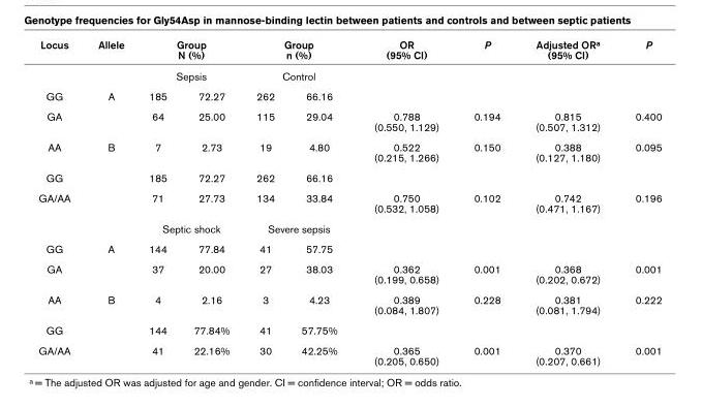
<table><thead><tr><td rowspan="3">Locus GG</td><td rowspan="3">Allele A</td><td rowspan="2" colspan="2">Group N (%) Sepsis</td><td rowspan="2" colspan="2">Group n (%) Control</td><td rowspan="3">OR (95% CI)</td><td rowspan="3">P</td><td rowspan="3">Adjusted OR<sup>a</sup> (95% CI)</td><td rowspan="3">P</td></tr><tr></tr><tr><td>185</td><td>72.27</td><td>262</td><td>66.16</td></tr></thead><tbody><tr><td>GA</td><td></td><td>64</td><td>25.00</td><td>115</td><td>29.04</td><td>0.788 (0.550, 1.129)</td><td>0.194</td><td>0.815 (0.507, 1.312)</td><td>0.400</td></tr><tr><td>AA</td><td>B</td><td>7</td><td>2.73</td><td>19</td><td>4.80</td><td>0.522 (0.215, 1.266)</td><td>0.150</td><td>0.388 (0.127, 1.180)</td><td>0.095</td></tr><tr><td>GG</td><td></td><td>185</td><td>72.27</td><td>262</td><td>66.16</td><td></td><td></td><td></td><td></td></tr><tr><td rowspan="2">GA/AA</td><td></td><td>71</td><td>27.73</td><td>134</td><td>33.84</td><td>0.750 (0.532, 1.058)</td><td>0.102</td><td>0.742 (0.471, 1.167)</td><td>0.196</td></tr><tr><td></td><td colspan="2">Septic shock</td><td colspan="2">Severe sepsis</td><td></td><td></td><td></td><td></td></tr><tr><td>GG</td><td>A</td><td>144</td><td>77.84</td><td>41</td><td>57.75</td><td></td><td></td><td></td><td></td></tr><tr><td>GA</td><td></td><td>37</td><td>20.00</td><td>27</td><td>38.03</td><td>0.362 (0.199, 0.658)</td><td>0.001</td><td>0.368 (0.202, 0.672)</td><td>0.001</td></tr><tr><td>AA</td><td>B</td><td>4</td><td>2.16</td><td>3</td><td>4.23</td><td>0.389 (0.084, 1.807)</td><td>0.228</td><td>0.381 (0.081, 1.794)</td><td>0.222</td></tr><tr><td>GG</td><td></td><td>144</td><td>77.84%</td><td>41</td><td>57.75%</td><td></td><td></td><td></td><td></td></tr><tr><td>GA/AA</td><td></td><td>41</td><td>22.16%</td><td>30</td><td>42.25%</td><td>0.365 (0.205, 0.650)</td><td>0.001</td><td>0.370 (0.207, 0.661)</td><td>0.001</td></tr></tbody></table>